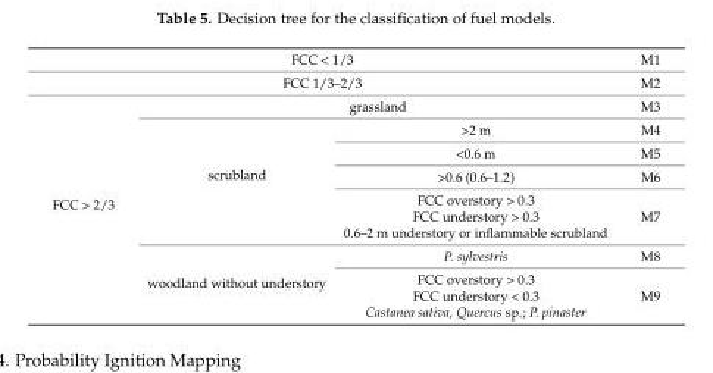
<table><tbody><tr><td colspan="3">FCC &lt; 1/3</td><td>M1</td></tr><tr><td colspan="3">FCC 1/3–2/3</td><td>M2</td></tr><tr><td rowspan="7">FCC &gt; 2/3</td><td colspan="2">grassland</td><td>M3</td></tr><tr><td rowspan="4">scrubland</td><td>&gt;2 m</td><td>M4</td></tr><tr><td>&lt;0.6 m</td><td>M5</td></tr><tr><td>&gt;0.6 (0.6–1.2)</td><td>M6</td></tr><tr><td>FCC overstory &gt; 0.3 FCC understory &gt; 0.3 0.6–2 m understory or inflammable scrubland</td><td>M7</td></tr><tr><td rowspan="2">woodland without understory</td><td>P. sylvestris</td><td>M8</td></tr><tr><td>FCC overstory &gt; 0.3 FCC understory &lt; 0.3 Castanea sativa, Quercus sp.; P. pinaster</td><td>M9</td></tr></tbody></table>